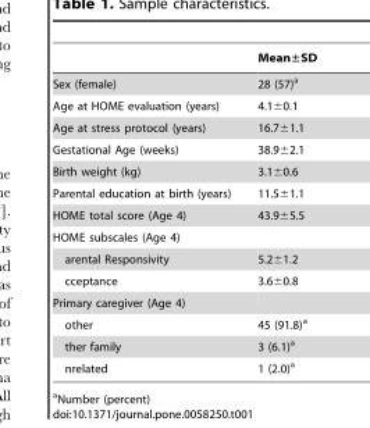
<table><thead><tr><td></td><td>Mean±SD</td></tr></thead><tbody><tr><td>Sex (female)</td><td>28 (57)<sup>a</sup></td></tr><tr><td>Age at HOME evaluation (years)</td><td>4.1±0.1</td></tr><tr><td>Age at stress protocol (years)</td><td>16.7±1.1</td></tr><tr><td>Gestational Age (weeks)</td><td>38.9±2.1</td></tr><tr><td>Birth weight (kg)</td><td>3.1±0.6</td></tr><tr><td>Parental education at birth (years)</td><td>11.5±1.1</td></tr><tr><td>HOME total score (Age 4)</td><td>43.9±5.5</td></tr><tr><td colspan="2">HOME subscales (Age 4)</td></tr><tr><td>arental Responsivity</td><td>5.2±1.2</td></tr><tr><td>cceptance</td><td>3.6±0.8</td></tr><tr><td colspan="2">Primary caregiver (Age 4)</td></tr><tr><td>other</td><td>45 (91.8)<sup>a</sup></td></tr><tr><td>ther family</td><td>3 (6.1)<sup>a</sup></td></tr><tr><td>nrelated</td><td>1 (2.0)<sup>a</sup></td></tr></tbody></table>